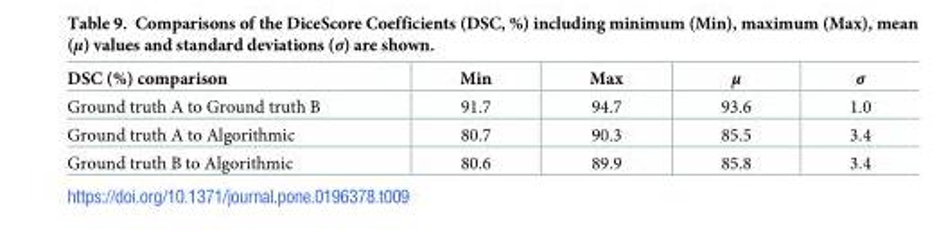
<table><thead><tr><td>DSC (%) comparison</td><td>Min</td><td>Max</td><td>μ</td><td>σ</td></tr></thead><tbody><tr><td>Ground truth A to Ground truth B</td><td>91.7</td><td>94.7</td><td>93.6</td><td>1.0</td></tr><tr><td>Ground truth A to Algorithmic</td><td>80.7</td><td>90.3</td><td>85.5</td><td>3.4</td></tr><tr><td>Ground truth B to Algorithmic</td><td>80.6</td><td>89.9</td><td>85.8</td><td>3.4</td></tr></tbody></table>